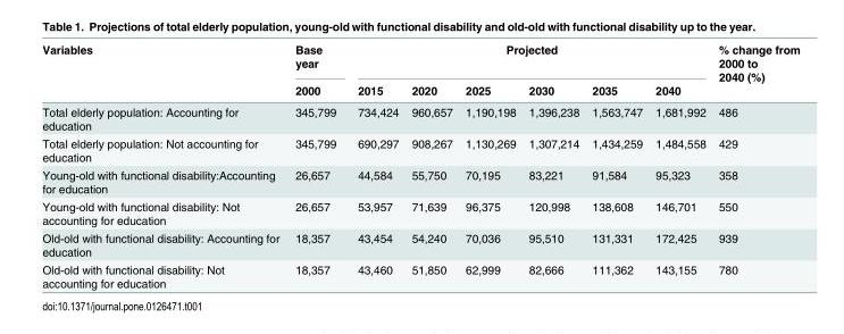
<table><thead><tr><td rowspan="2">Variables</td><td rowspan="2">Base year 2000</td><td colspan="6">Projected</td><td rowspan="2">% change from 2000 to 2040 (%)</td></tr><tr><td>2015</td><td>2020</td><td>2025</td><td>2030</td><td>2035</td><td>2040</td></tr></thead><tbody><tr><td>Total elderly population: Accounting for education</td><td>345,799</td><td>734,424</td><td>960,657</td><td>1,190,198</td><td>1,396,238</td><td>1,563,747</td><td>1,681,992</td><td>486</td></tr><tr><td>Total elderly population: Not accounting for education</td><td>345,799</td><td>690,297</td><td>908,267</td><td>1,130,269</td><td>1,307,214</td><td>1,434,259</td><td>1,484,558</td><td>429</td></tr><tr><td>Young-old with functional disability:Accounting for education</td><td>26,657</td><td>44,584</td><td>55,750</td><td>70,195</td><td>83,221</td><td>91,584</td><td>95,323</td><td>358</td></tr><tr><td>Young-old with functional disability: Not accounting for education</td><td>26,657</td><td>53,957</td><td>71,639</td><td>96,375</td><td>120,998</td><td>138,608</td><td>146,701</td><td>550</td></tr><tr><td>Old-old with functional disability: Accounting for education</td><td>18,357</td><td>43,454</td><td>54,240</td><td>70,036</td><td>95,510</td><td>131,331</td><td>172,425</td><td>939</td></tr><tr><td>Old-old with functional disability: Not accounting for education</td><td>18,357</td><td>43,460</td><td>51,850</td><td>62,999</td><td>82,666</td><td>111,362</td><td>143,155</td><td>780</td></tr></tbody></table>